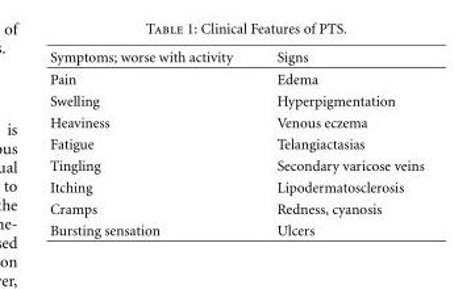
<table><thead><tr><td>Symptoms; worse with activity</td><td>Signs</td></tr></thead><tbody><tr><td>Pain</td><td>Edema</td></tr><tr><td>Swelling</td><td>Hyperpigmentation</td></tr><tr><td>Heaviness</td><td>Venous eczema</td></tr><tr><td>Fatigue</td><td>Telangiactasias</td></tr><tr><td>Tingling</td><td>Secondary varicose veins</td></tr><tr><td>Itching</td><td>Lipodermatosclerosis</td></tr><tr><td>Cramps</td><td>Redness, cyanosis</td></tr><tr><td>Bursting sensation</td><td>Ulcers</td></tr></tbody></table>